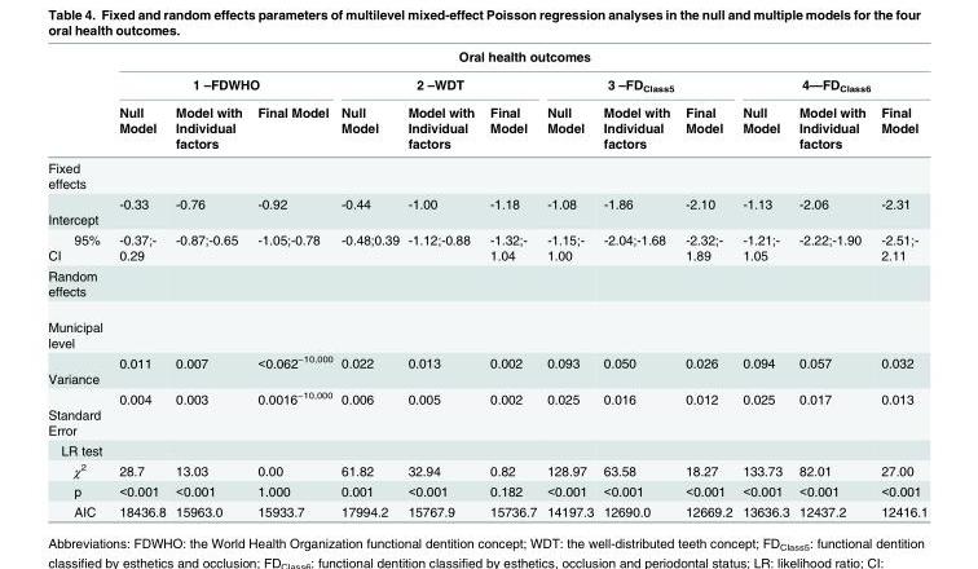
<table><thead><tr><td rowspan="3"></td><td colspan="12">Oral health outcomes</td></tr><tr><td colspan="3">1 –FDWHO</td><td colspan="3">2 –WDT</td><td colspan="3">3 –FD<sub>Class5</sub></td><td colspan="3">4—FD<sub>Class6</sub></td></tr><tr><td>Null Model</td><td>Model with Individual factors</td><td>Final Model</td><td>Null Model</td><td>Model with Individual factors</td><td>Final Model</td><td>Null Model</td><td>Model with Individual factors</td><td>Final Model</td><td>Null Model</td><td>Model with Individual factors</td><td>Final Model</td></tr></thead><tbody><tr><td colspan="13">Fixed effects</td></tr><tr><td>Intercept</td><td>-0.33</td><td>-0.76</td><td>-0.92</td><td>-0.44</td><td>-1.00</td><td>-1.18</td><td>-1.08</td><td>-1.86</td><td>-2.10</td><td>-1.13</td><td>-2.06</td><td>-2.31</td></tr><tr><td>95% CI</td><td>-0.37;- 0.29</td><td>-0.87;-0.65</td><td>-1.05;-0.78</td><td>-0.48;0.39</td><td>-1.12;-0.88</td><td>-1.32;- 1.04</td><td>-1.15;- 1.00</td><td>-2.04;-1.68</td><td>-2.32;- 1.89</td><td>-1.21;- 1.05</td><td>-2.22;-1.90</td><td>-2.51;- 2.11</td></tr><tr><td colspan="13">Random effects</td></tr><tr><td colspan="13">Municipal level</td></tr><tr><td>Variance</td><td>0.011</td><td>0.007</td><td>&lt;0.062<sup>−10,000</sup></td><td>0.022</td><td>0.013</td><td>0.002</td><td>0.093</td><td>0.050</td><td>0.026</td><td>0.094</td><td>0.057</td><td>0.032</td></tr><tr><td>Standard Error</td><td>0.004</td><td>0.003</td><td>0.0016<sup>−10,000</sup></td><td>0.006</td><td>0.005</td><td>0.002</td><td>0.025</td><td>0.016</td><td>0.012</td><td>0.025</td><td>0.017</td><td>0.013</td></tr><tr><td colspan="13">LR test</td></tr><tr><td>χ<sup>2</sup></td><td>28.7</td><td>13.03</td><td>0.00</td><td>61.82</td><td>32.94</td><td>0.82</td><td>128.97</td><td>63.58</td><td>18.27</td><td>133.73</td><td>82.01</td><td>27.00</td></tr><tr><td>p</td><td>&lt;0.001</td><td>&lt;0.001</td><td>1.000</td><td>0.001</td><td>&lt;0.001</td><td>0.182</td><td>&lt;0.001</td><td>&lt;0.001</td><td>&lt;0.001</td><td>&lt;0.001</td><td>&lt;0.001</td><td>&lt;0.001</td></tr><tr><td>AIC</td><td>18436.8</td><td>15963.0</td><td>15933.7</td><td>17994.2</td><td>15767.9</td><td>15736.7</td><td>14197.3</td><td>12690.0</td><td>12669.2</td><td>13636.3</td><td>12437.2</td><td>12416.1</td></tr></tbody></table>